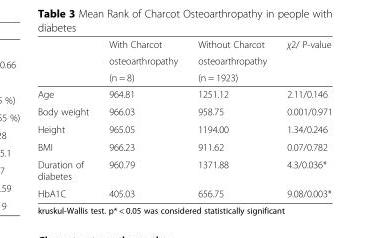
<table><thead><tr><td rowspan="3"></td><td rowspan="3">With Charcot osteoarthropathy (n = 8)</td><td rowspan="3">Without Charcot osteoarthropathy (n = 1923)</td><td rowspan="3">χ2/ P-value</td></tr><tr></tr><tr></tr></thead><tbody><tr><td>Age</td><td>964.81</td><td>1251.12</td><td>2.11/0.146</td></tr><tr><td>Body weight</td><td>966.03</td><td>958.75</td><td>0.001/0.971</td></tr><tr><td>Height</td><td>965.05</td><td>1194.00</td><td>1.34/0.246</td></tr><tr><td>BMI</td><td>966.23</td><td>911.62</td><td>0.07/0.782</td></tr><tr><td>Duration of diabetes</td><td>960.79</td><td>1371.88</td><td>4.3/0.036*</td></tr><tr><td>HbA1C</td><td>405.03</td><td>656.75</td><td>9.08/0.003*</td></tr></tbody></table>